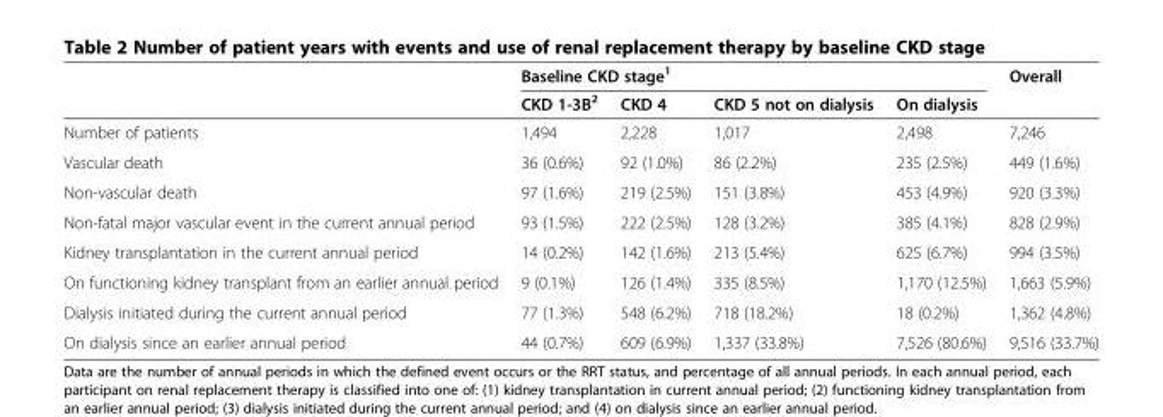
<table><thead><tr><td rowspan="2"></td><td colspan="4">Baseline CKD stage<sup>1</sup></td><td rowspan="2">Overall</td></tr><tr><td>CKD 1-3B<sup>2</sup></td><td>CKD 4</td><td>CKD 5 not on dialysis</td><td>On dialysis</td></tr></thead><tbody><tr><td>Number of patients</td><td>1,494</td><td>2,228</td><td>1,017</td><td>2,498</td><td>7,246</td></tr><tr><td>Vascular death</td><td>36 (0.6%)</td><td>92 (1.0%)</td><td>86 (2.2%)</td><td>235 (2.5%)</td><td>449 (1.6%)</td></tr><tr><td>Non-vascular death</td><td>97 (1.6%)</td><td>219 (2.5%)</td><td>151 (3.8%)</td><td>453 (4.9%)</td><td>920 (3.3%)</td></tr><tr><td>Non-fatal major vascular event in the current annual period</td><td>93 (1.5%)</td><td>222 (2.5%)</td><td>128 (3.2%)</td><td>385 (4.1%)</td><td>828 (2.9%)</td></tr><tr><td>Kidney transplantation in the current annual period</td><td>14 (0.2%)</td><td>142 (1.6%)</td><td>213 (5.4%)</td><td>625 (6.7%)</td><td>994 (3.5%)</td></tr><tr><td>On functioning kidney transplant from an earlier annual period</td><td>9 (0.1%)</td><td>126 (1.4%)</td><td>335 (8.5%)</td><td>1,170 (12.5%)</td><td>1,663 (5.9%)</td></tr><tr><td>Dialysis initiated during the current annual period</td><td>77 (1.3%)</td><td>548 (6.2%)</td><td>718 (18.2%)</td><td>18 (0.2%)</td><td>1,362 (4.8%)</td></tr><tr><td>On dialysis since an earlier annual period</td><td>44 (0.7%)</td><td>609 (6.9%)</td><td>1,337 (33.8%)</td><td>7,526 (80.6%)</td><td>9,516 (33.7%)</td></tr></tbody></table>